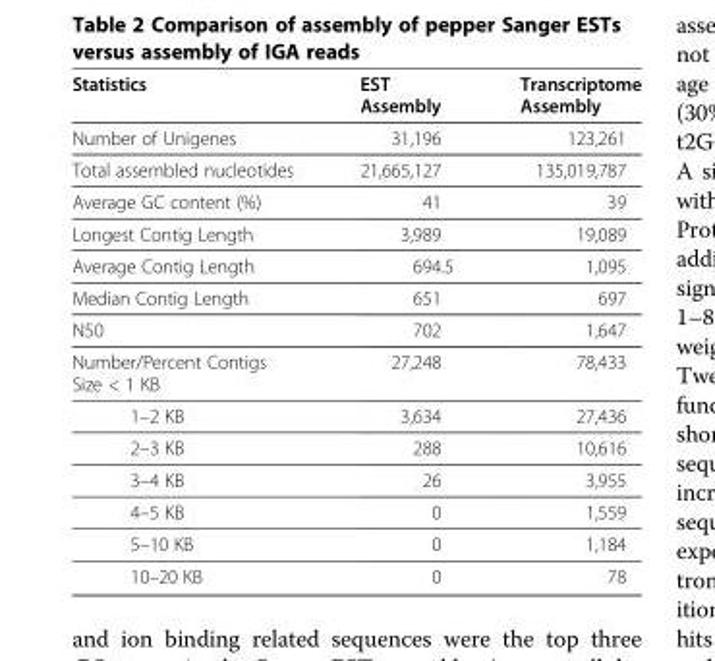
<table><thead><tr><td>Statistics</td><td>EST Assembly</td><td>Transcriptome Assembly</td></tr></thead><tbody><tr><td>Number of Unigenes</td><td>31,196</td><td>123,261</td></tr><tr><td>Total assembled nucleotides</td><td>21,665,127</td><td>135,019,787</td></tr><tr><td>Average GC content (%)</td><td>41</td><td>39</td></tr><tr><td>Longest Contig Length</td><td>3,989</td><td>19,089</td></tr><tr><td>Average Contig Length</td><td>694.5</td><td>1,095</td></tr><tr><td>Median Contig Length</td><td>651</td><td>697</td></tr><tr><td>N50</td><td>702</td><td>1,647</td></tr><tr><td>Number/Percent Contigs Size &lt; 1 KB</td><td>27,248</td><td>78,433</td></tr><tr><td>1–2 KB</td><td>3,634</td><td>27,436</td></tr><tr><td>2–3 KB</td><td>288</td><td>10,616</td></tr><tr><td>3–4 KB</td><td>26</td><td>3,955</td></tr><tr><td>4–5 KB</td><td>0</td><td>1,559</td></tr><tr><td>5–10 KB</td><td>0</td><td>1,184</td></tr><tr><td>10–20 KB</td><td>0</td><td>78</td></tr></tbody></table>